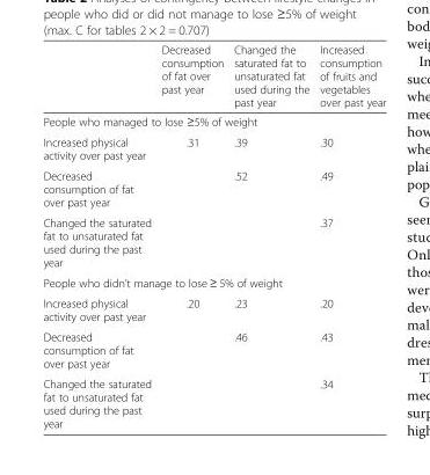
<table><thead><tr><td></td><td>Decreased consumption of fat over past year</td><td>Changed the saturated fat to unsaturated fat used during the past year</td><td>Increased consumption of fruits and vegetables over past year</td></tr></thead><tbody><tr><td colspan="4">People who managed to lose ≥5% of weight</td></tr><tr><td>Increased physical activity over past year</td><td>.31</td><td>.39</td><td>.30</td></tr><tr><td>Decreased consumption of fat over past year</td><td></td><td>.52</td><td>.49</td></tr><tr><td>Changed the saturated fat to unsaturated fat used during the past year</td><td></td><td></td><td>.37</td></tr><tr><td colspan="4">People who didn’t manage to lose ≥ 5% of weight</td></tr><tr><td>Increased physical activity over past year</td><td>.20</td><td>.23</td><td>.20</td></tr><tr><td>Decreased consumption of fat over past year</td><td></td><td>.46</td><td>.43</td></tr><tr><td>Changed the saturated fat to unsaturated fat used during the past year</td><td></td><td></td><td>.34</td></tr></tbody></table>